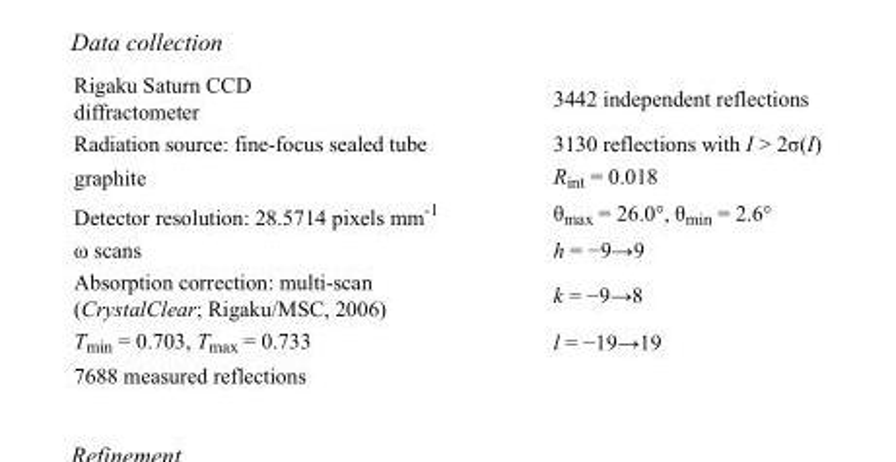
<table><tbody><tr><td>Rigaku Saturn CCD diffractometer</td><td>3442 independent reflections</td></tr><tr><td>Radiation source: fine-focus sealed tube</td><td>3130 reflections with I &gt; 2σ(I)</td></tr><tr><td>graphite</td><td>R<sub>int</sub> = 0.018</td></tr><tr><td>Detector resolution: 28.5714 pixels mm<sup>-1</sup></td><td>θ<sub>max</sub> = 26.0°, θ<sub>min</sub> = 2.6°</td></tr><tr><td>ω scans</td><td>h = −9→9</td></tr><tr><td>Absorption correction: multi-scan (CrystalClear; Rigaku/MSC, 2006)</td><td>k = −9→8</td></tr><tr><td>T<sub>min</sub> = 0.703, T<sub>max</sub> = 0.733</td><td>l = −19→19</td></tr><tr><td>7688 measured reflections</td><td></td></tr></tbody></table>